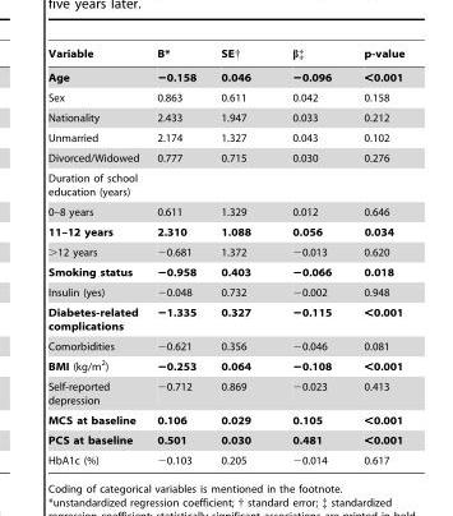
<table><thead><tr><td>Variable</td><td>B*</td><td>SE†</td><td>β‡</td><td>p-value</td></tr></thead><tbody><tr><td>Age</td><td>−0.158</td><td>0.046</td><td>−0.096</td><td>&lt;0.001</td></tr><tr><td>Sex</td><td>0.863</td><td>0.611</td><td>0.042</td><td>0.158</td></tr><tr><td>Nationality</td><td>2.433</td><td>1.947</td><td>0.033</td><td>0.212</td></tr><tr><td>Unmarried</td><td>2.174</td><td>1.327</td><td>0.043</td><td>0.102</td></tr><tr><td>Divorced/Widowed</td><td>0.777</td><td>0.715</td><td>0.030</td><td>0.276</td></tr><tr><td colspan="5">Duration of school education (years)</td></tr><tr><td>0–8 years</td><td>0.611</td><td>1.329</td><td>0.012</td><td>0.646</td></tr><tr><td>11–12 years</td><td>2.310</td><td>1.088</td><td>0.056</td><td>0.034</td></tr><tr><td>&gt;12 years</td><td>−0.681</td><td>1.372</td><td>−0.013</td><td>0.620</td></tr><tr><td>Smoking status</td><td>−0.958</td><td>0.403</td><td>−0.066</td><td>0.018</td></tr><tr><td>Insulin (yes)</td><td>−0.048</td><td>0.732</td><td>−0.002</td><td>0.948</td></tr><tr><td>Diabetes-related complications</td><td>−1.335</td><td>0.327</td><td>−0.115</td><td>&lt;0.001</td></tr><tr><td>Comorbidities</td><td>−0.621</td><td>0.356</td><td>−0.046</td><td>0.081</td></tr><tr><td>BMI (kg/m<sup>2</sup>)</td><td>−0.253</td><td>0.064</td><td>−0.108</td><td>&lt;0.001</td></tr><tr><td>Self-reported depression</td><td>−0.712</td><td>0.869</td><td>−0.023</td><td>0.413</td></tr><tr><td>MCS at baseline</td><td>0.106</td><td>0.029</td><td>0.105</td><td>&lt;0.001</td></tr><tr><td>PCS at baseline</td><td>0.501</td><td>0.030</td><td>0.481</td><td>&lt;0.001</td></tr><tr><td>HbA1c (%)</td><td>−0.103</td><td>0.205</td><td>−0.014</td><td>0.617</td></tr></tbody></table>